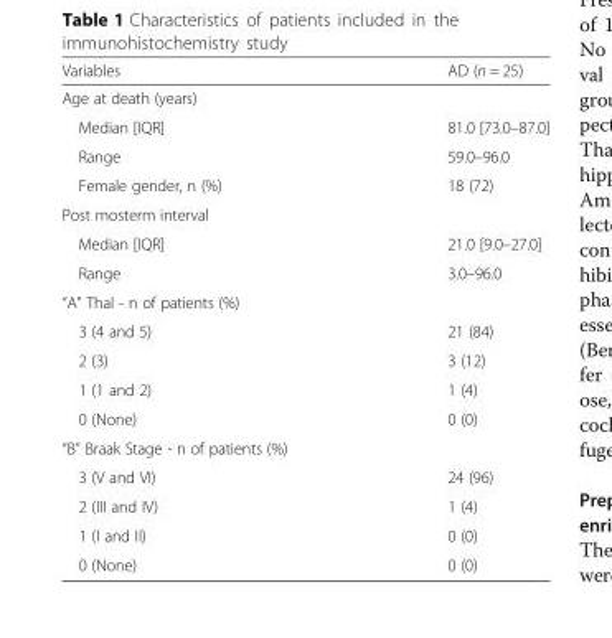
<table><thead><tr><td>Variables</td><td>AD (n = 25)</td></tr></thead><tbody><tr><td colspan="2">Age at death (years)</td></tr><tr><td>Median [IQR]</td><td>81.0 [73.0–87.0]</td></tr><tr><td>Range</td><td>59.0–96.0</td></tr><tr><td>Female gender, n (%)</td><td>18 (72)</td></tr><tr><td colspan="2">Post mosterm interval</td></tr><tr><td>Median [IQR]</td><td>21.0 [9.0–27.0]</td></tr><tr><td>Range</td><td>3.0–96.0</td></tr><tr><td colspan="2">“A” Thal - n of patients (%)</td></tr><tr><td>3 (4 and 5)</td><td>21 (84)</td></tr><tr><td>2 (3)</td><td>3 (12)</td></tr><tr><td>1 (1 and 2)</td><td>1 (4)</td></tr><tr><td>0 (None)</td><td>0 (0)</td></tr><tr><td colspan="2">“B” Braak Stage - n of patients (%)</td></tr><tr><td>3 (V and VI)</td><td>24 (96)</td></tr><tr><td>2 (III and IV)</td><td>1 (4)</td></tr><tr><td>1 (I and II)</td><td>0 (0)</td></tr><tr><td>0 (None)</td><td>0 (0)</td></tr></tbody></table>